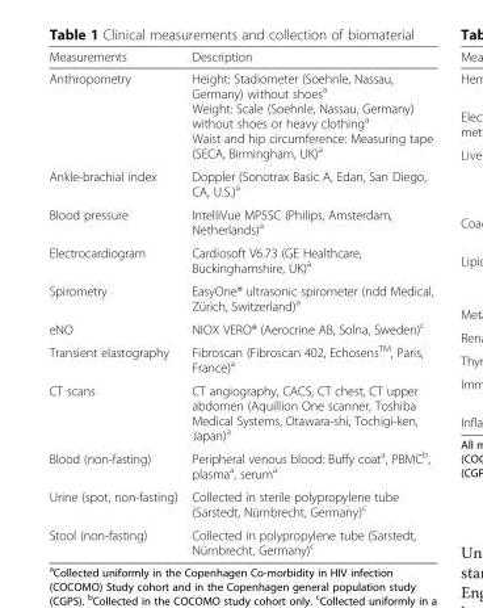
<table><thead><tr><td>Measurements</td><td>Description</td></tr></thead><tbody><tr><td>Anthropometry</td><td>Height: Stadiometer (Soehnle, Nassau, Germany) without shoes<sup>a</sup> Weight: Scale (Soehnle, Nassau, Germany) without shoes or heavy clothing<sup>a</sup> Waist and hip circumference: Measuring tape (SECA, Birmingham, UK)<sup>a</sup></td></tr><tr><td>Ankle-brachial index</td><td>Doppler (Sonotrax Basic A, Edan, San Diego, CA, U.S.)<sup>a</sup></td></tr><tr><td>Blood pressure</td><td>IntelliVue MP5SC (Philips, Amsterdam, Netherlands)<sup>a</sup></td></tr><tr><td>Electrocardiogram</td><td>Cardiosoft V6.73 (GE Healthcare, Buckinghamshire, UK)<sup>a</sup></td></tr><tr><td>Spirometry</td><td>EasyOne® ultrasonic spirometer (ndd Medical, Zürich, Switzerland)<sup>a</sup></td></tr><tr><td>eNO</td><td>NIOX VERO® (Aerocrine AB, Solna, Sweden)<sup>c</sup></td></tr><tr><td>Transient elastography</td><td>Fibroscan (Fibroscan 402, Echosens<sup>TM</sup>, Paris, France)<sup>a</sup></td></tr><tr><td>CT scans</td><td>CT angiography, CACS, CT chest, CT upper abdomen (Aquillion One scanner, Toshiba Medical Systems, Otawara-shi, Tochigi-ken, Japan)<sup>a</sup></td></tr><tr><td>Blood (non-fasting)</td><td>Peripheral venous blood: Buffy coat<sup>a</sup>, PBMC<sup>b</sup>, plasma<sup>a</sup>, serum<sup>a</sup></td></tr><tr><td>Urine (spot, non-fasting)</td><td>Collected in sterile polypropylene tube (Sarstedt, Nürnbrecht, Germany)<sup>c</sup></td></tr><tr><td>Stool (non-fasting)</td><td>Collected in polypropylene tube (Sarstedt, Nürnbrecht, Germany)<sup>c</sup></td></tr></tbody></table>